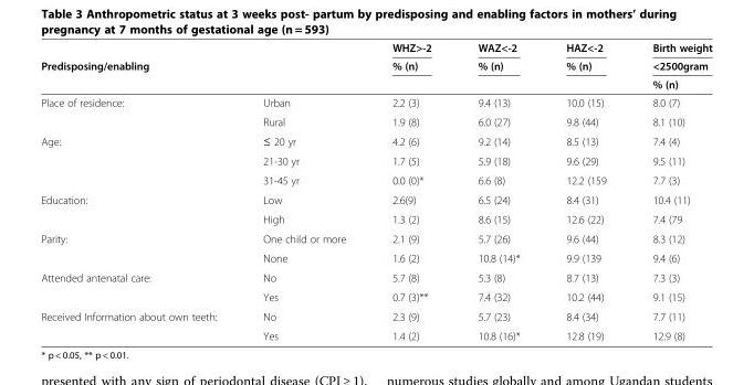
<table><thead><tr><td rowspan="3">Predisposing/enabling</td><td rowspan="3"></td><td rowspan="3">WHZ&gt;-2 % (n)</td><td rowspan="3">WAZ&lt;-2 % (n)</td><td rowspan="3">HAZ&lt;-2 % (n)</td><td rowspan="3">Birth weight &lt;2500gram % (n)</td></tr><tr></tr><tr></tr></thead><tbody><tr><td rowspan="2">Place of residence:</td><td>Urban</td><td>2.2 (3)</td><td>9.4 (13)</td><td>10.0 (15)</td><td>8.0 (7)</td></tr><tr><td>Rural</td><td>1.9 (8)</td><td>6.0 (27)</td><td>9.8 (44)</td><td>8.1 (10)</td></tr><tr><td rowspan="3">Age:</td><td>≤ 20 yr</td><td>4.2 (6)</td><td>9.2 (14)</td><td>8.5 (13)</td><td>7.4 (4)</td></tr><tr><td>21-30 yr</td><td>1.7 (5)</td><td>5.9 (18)</td><td>9.6 (29)</td><td>9.5 (11)</td></tr><tr><td>31-45 yr</td><td>0.0 (0)*</td><td>6.6 (8)</td><td>12.2 (159</td><td>7.7 (3)</td></tr><tr><td rowspan="2">Education:</td><td>Low</td><td>2.6(9)</td><td>6.5 (24)</td><td>8.4 (31)</td><td>10.4 (11)</td></tr><tr><td>High</td><td>1.3 (2)</td><td>8.6 (15)</td><td>12.6 (22)</td><td>7.4 (79</td></tr><tr><td rowspan="2">Parity:</td><td>One child or more</td><td>2.1 (9)</td><td>5.7 (26)</td><td>9.6 (44)</td><td>8.3 (12)</td></tr><tr><td>None</td><td>1.6 (2)</td><td>10.8 (14)*</td><td>9.9 (139</td><td>9.4 (6)</td></tr><tr><td rowspan="2">Attended antenatal care:</td><td>No</td><td>5.7 (8)</td><td>5.3 (8)</td><td>8.7 (13)</td><td>7.3 (3)</td></tr><tr><td>Yes</td><td>0.7 (3)**</td><td>7.4 (32)</td><td>10.2 (44)</td><td>9.1 (15)</td></tr><tr><td rowspan="2">Received Information about own teeth:</td><td>No</td><td>2.3 (9)</td><td>5.7 (23)</td><td>8.4 (34)</td><td>7.7 (11)</td></tr><tr><td>Yes</td><td>1.4 (2)</td><td>10.8 (16)*</td><td>12.8 (19)</td><td>12.9 (8)</td></tr></tbody></table>